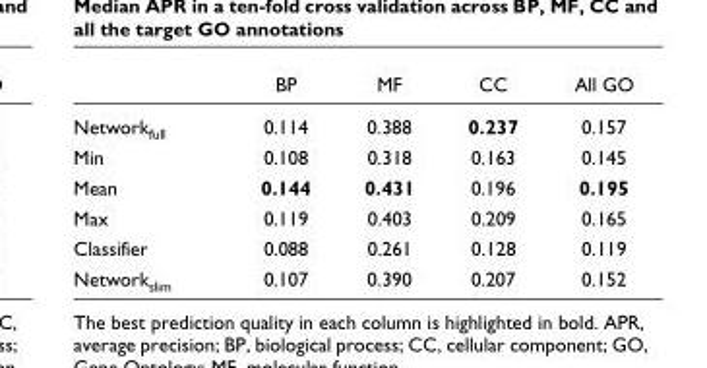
<table><thead><tr><td></td><td>BP</td><td>MF</td><td>CC</td><td>All GO</td></tr></thead><tbody><tr><td>Network<sub>full</sub></td><td>0.114</td><td>0.388</td><td>0.237</td><td>0.157</td></tr><tr><td>Min</td><td>0.108</td><td>0.318</td><td>0.163</td><td>0.145</td></tr><tr><td>Mean</td><td>0.144</td><td>0.431</td><td>0.196</td><td>0.195</td></tr><tr><td>Max</td><td>0.119</td><td>0.403</td><td>0.209</td><td>0.165</td></tr><tr><td>Classifier</td><td>0.088</td><td>0.261</td><td>0.128</td><td>0.119</td></tr><tr><td>Network<sub>slim</sub></td><td>0.107</td><td>0.390</td><td>0.207</td><td>0.152</td></tr></tbody></table>